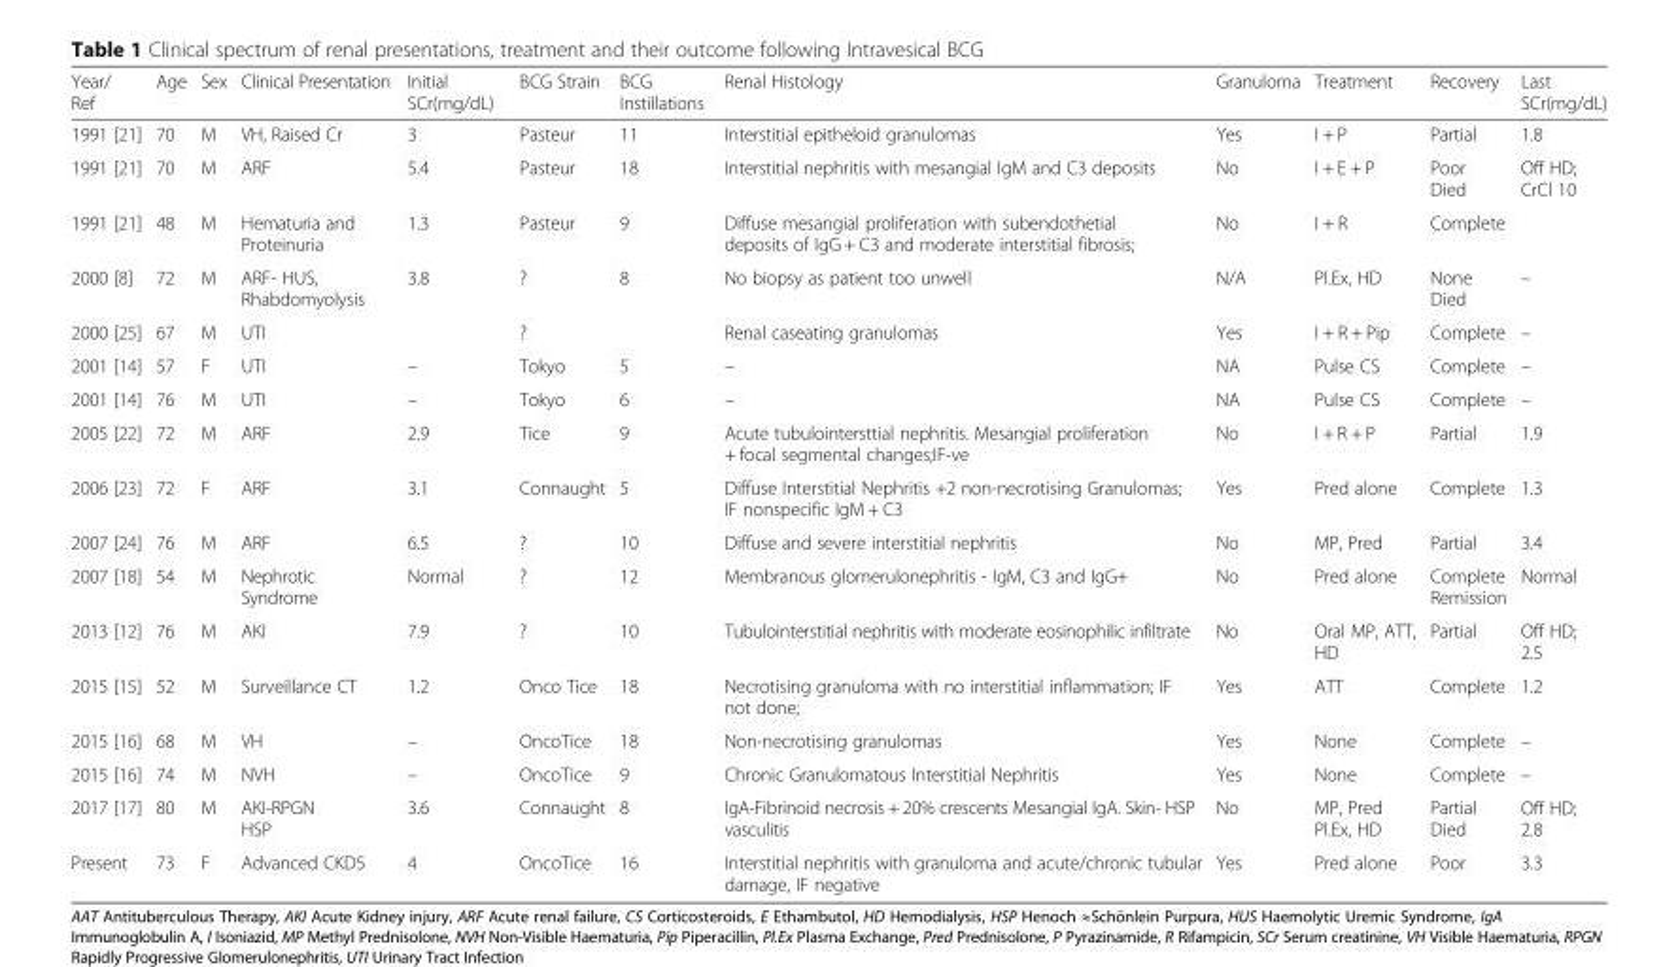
<table><thead><tr><td>Year/ Ref</td><td>Age</td><td>Sex</td><td>Clinical Presentation</td><td>Initial SCr(mg/dL)</td><td>BCG Strain</td><td>BCG Instillations</td><td>Renal Histology</td><td>Granuloma</td><td>Treatment</td><td>Recovery</td><td>Last SCr(mg/dL)</td></tr></thead><tbody><tr><td>1991 [21]</td><td>70</td><td>M</td><td>VH, Raised Cr</td><td>3</td><td>Pasteur</td><td>11</td><td>Interstitial epitheloid granulomas</td><td>Yes</td><td>I + P</td><td>Partial</td><td>1.8</td></tr><tr><td>1991 [21]</td><td>70</td><td>M</td><td>ARF</td><td>5.4</td><td>Pasteur</td><td>18</td><td>Interstitial nephritis with mesangial IgM and C3 deposits</td><td>No</td><td>I + E + P</td><td>Poor Died</td><td>Off HD; CrCl 10</td></tr><tr><td>1991 [21]</td><td>48</td><td>M</td><td>Hematuria and Proteinuria</td><td>1.3</td><td>Pasteur</td><td>9</td><td>Diffuse mesangial proliferation with subendothetial deposits of IgG + C3 and moderate interstitial fibrosis;</td><td>No</td><td>I + R</td><td>Complete</td><td></td></tr><tr><td>2000 [8]</td><td>72</td><td>M</td><td>ARF- HUS, Rhabdomyolysis</td><td>3.8</td><td>?</td><td>8</td><td>No biopsy as patient too unwell</td><td>N/A</td><td>Pl.Ex, HD</td><td>None Died</td><td>–</td></tr><tr><td>2000 [25]</td><td>67</td><td>M</td><td>UTI</td><td></td><td>?</td><td></td><td>Renal caseating granulomas</td><td>Yes</td><td>I + R + Pip</td><td>Complete</td><td>–</td></tr><tr><td>2001 [14]</td><td>57</td><td>F</td><td>UTI</td><td>–</td><td>Tokyo</td><td>5</td><td>–</td><td>NA</td><td>Pulse CS</td><td>Complete</td><td>–</td></tr><tr><td>2001 [14]</td><td>76</td><td>M</td><td>UTI</td><td>–</td><td>Tokyo</td><td>6</td><td>–</td><td>NA</td><td>Pulse CS</td><td>Complete</td><td>–</td></tr><tr><td>2005 [22]</td><td>72</td><td>M</td><td>ARF</td><td>2.9</td><td>Tice</td><td>9</td><td>Acute tubulointersttial nephritis. Mesangial proliferation + focal segmental changes;IF-ve</td><td>No</td><td>I + R + P</td><td>Partial</td><td>1.9</td></tr><tr><td>2006 [23]</td><td>72</td><td>F</td><td>ARF</td><td>3.1</td><td>Connaught</td><td>5</td><td>Diffuse Interstitial Nephritis +2 non-necrotising Granulomas; IF nonspecific IgM + C3</td><td>Yes</td><td>Pred alone</td><td>Complete</td><td>1.3</td></tr><tr><td>2007 [24]</td><td>76</td><td>M</td><td>ARF</td><td>6.5</td><td>?</td><td>10</td><td>Diffuse and severe interstitial nephritis</td><td>No</td><td>MP, Pred</td><td>Partial</td><td>3.4</td></tr><tr><td>2007 [18]</td><td>54</td><td>M</td><td>Nephrotic Syndrome</td><td>Normal</td><td>?</td><td>12</td><td>Membranous glomerulonephritis - IgM, C3 and IgG+</td><td>No</td><td>Pred alone</td><td>Complete Remission</td><td>Normal</td></tr><tr><td>2013 [12]</td><td>76</td><td>M</td><td>AKI</td><td>7.9</td><td>?</td><td>10</td><td>Tubulointerstitial nephritis with moderate eosinophilic infiltrate</td><td>No</td><td>Oral MP, ATT, HD</td><td>Partial</td><td>Off HD; 2.5</td></tr><tr><td>2015 [15]</td><td>52</td><td>M</td><td>Surveillance CT</td><td>1.2</td><td>Onco Tice</td><td>18</td><td>Necrotising granuloma with no interstitial inflammation; IF not done;</td><td>Yes</td><td>ATT</td><td>Complete</td><td>1.2</td></tr><tr><td>2015 [16]</td><td>68</td><td>M</td><td>VH</td><td>–</td><td>OncoTice</td><td>18</td><td>Non-necrotising granulomas</td><td>Yes</td><td>None</td><td>Complete</td><td>–</td></tr><tr><td>2015 [16]</td><td>74</td><td>M</td><td>NVH</td><td>–</td><td>OncoTice</td><td>9</td><td>Chronic Granulomatous Interstitial Nephritis</td><td>Yes</td><td>None</td><td>Complete</td><td>–</td></tr><tr><td>2017 [17]</td><td>80</td><td>M</td><td>AKI-RPGN HSP</td><td>3.6</td><td>Connaught</td><td>8</td><td>IgA-Fibrinoid necrosis + 20% crescents Mesangial IgA. Skin- HSP vasculitis</td><td>No</td><td>MP, Pred Pl.Ex, HD</td><td>Partial Died</td><td>Off HD; 2.8</td></tr><tr><td>Present</td><td>73</td><td>F</td><td>Advanced CKD5</td><td>4</td><td>OncoTice</td><td>16</td><td>Interstitial nephritis with granuloma and acute/chronic tubular damage, IF negative</td><td>Yes</td><td>Pred alone</td><td>Poor</td><td>3.3</td></tr></tbody></table>